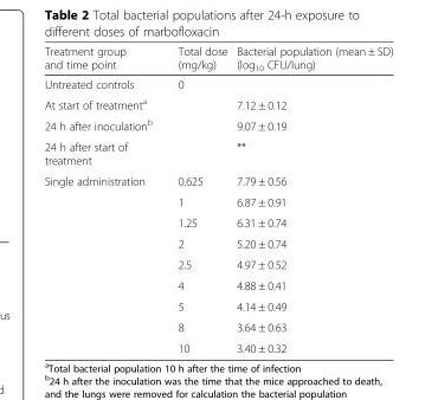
<table><thead><tr><td>Treatment group and time point</td><td>Total dose (mg/kg)</td><td>Bacterial population (mean ± SD) (log<sub>10</sub> CFU/lung)</td></tr></thead><tbody><tr><td>Untreated controls</td><td>0</td><td></td></tr><tr><td>At start of treatment<sup>a</sup></td><td></td><td>7.12 ± 0.12</td></tr><tr><td>24 h after inoculation<sup>b</sup></td><td></td><td>9.07 ± 0.19</td></tr><tr><td>24 h after start of treatment</td><td></td><td>**</td></tr><tr><td rowspan="9">Single administration</td><td>0.625</td><td>7.79 ± 0.56</td></tr><tr><td>1</td><td>6.87 ± 0.91</td></tr><tr><td>1.25</td><td>6.31 ± 0.74</td></tr><tr><td>2</td><td>5.20 ± 0.74</td></tr><tr><td>2.5</td><td>4.97 ± 0.52</td></tr><tr><td>4</td><td>4.88 ± 0.41</td></tr><tr><td>5</td><td>4.14 ± 0.49</td></tr><tr><td>8</td><td>3.64 ± 0.63</td></tr><tr><td>10</td><td>3.40 ± 0.32</td></tr></tbody></table>